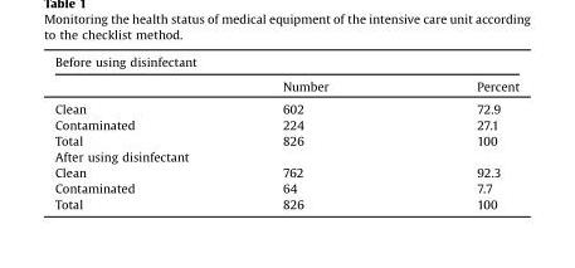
<table><thead><tr><td colspan="3">Before using disinfectant</td></tr><tr><td></td><td>Number</td><td>Percent</td></tr></thead><tbody><tr><td>Clean</td><td>602</td><td>72.9</td></tr><tr><td>Contaminated</td><td>224</td><td>27.1</td></tr><tr><td>Total</td><td>826</td><td>100</td></tr><tr><td colspan="3">After using disinfectant</td></tr><tr><td>Clean</td><td>762</td><td>92.3</td></tr><tr><td>Contaminated</td><td>64</td><td>7.7</td></tr><tr><td>Total</td><td>826</td><td>100</td></tr></tbody></table>